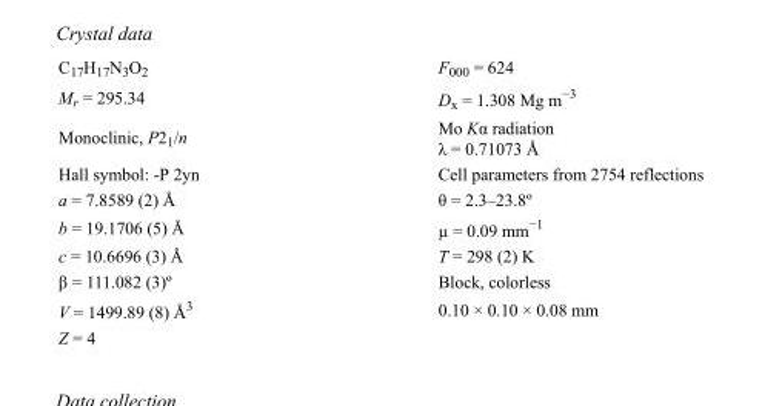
<table><tbody><tr><td>C<sub>17</sub>H<sub>17</sub>N<sub>3</sub>O<sub>2</sub></td><td>F000 = 624</td></tr><tr><td>M<sub>r</sub> = 295.34</td><td>D<sub>x</sub> = 1.308 Mg m<sup>−3</sup></td></tr><tr><td>Monoclinic, P2<sub>1</sub>/n</td><td>Mo Kα radiation λ = 0.71073 Å</td></tr><tr><td>Hall symbol: -P 2yn</td><td>Cell parameters from 2754 reflections</td></tr><tr><td>a = 7.8589 (2) Å</td><td>θ = 2.3–23.8º</td></tr><tr><td>b = 19.1706 (5) Å</td><td>µ = 0.09 mm<sup>−1</sup></td></tr><tr><td>c = 10.6696 (3) Å</td><td>T = 298 (2) K</td></tr><tr><td>β = 111.082 (3)º</td><td>Block, colorless</td></tr><tr><td>V = 1499.89 (8) Å<sup>3</sup></td><td>0.10 × 0.10 × 0.08 mm</td></tr><tr><td>Z = 4</td><td></td></tr></tbody></table>